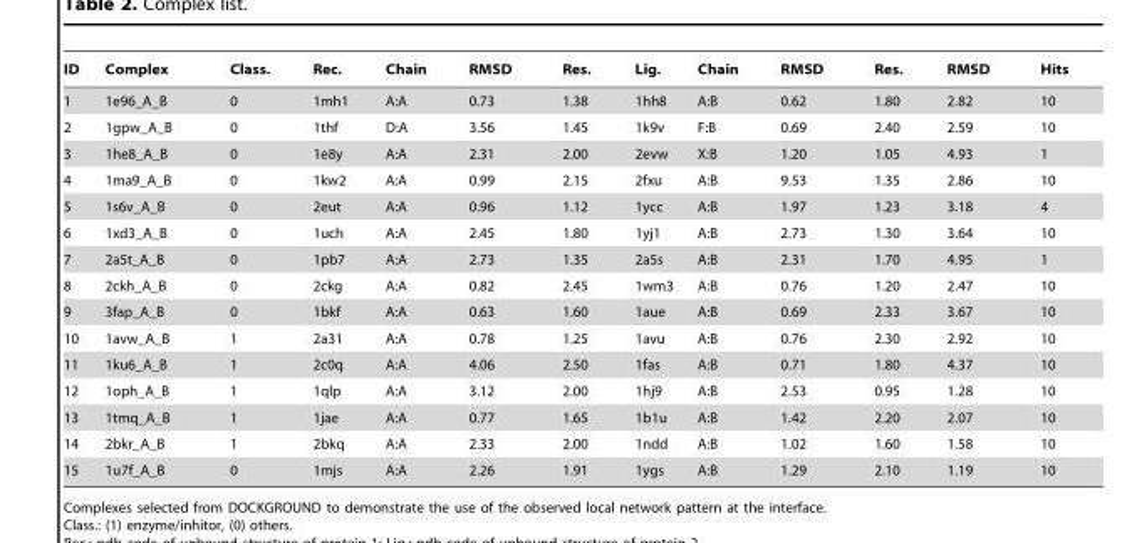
<table><thead><tr><td>ID</td><td>Complex</td><td>Class.</td><td>Rec.</td><td>Chain</td><td>RMSD</td><td>Res.</td><td>Lig.</td><td>Chain</td><td>RMSD</td><td>Res.</td><td>RMSD</td><td>Hits</td></tr></thead><tbody><tr><td>1</td><td>1e96_A_B</td><td>0</td><td>1mh1</td><td>A:A</td><td>0.73</td><td>1.38</td><td>1hh8</td><td>A:B</td><td>0.62</td><td>1.80</td><td>2.82</td><td>10</td></tr><tr><td>2</td><td>1gpw_A_B</td><td>0</td><td>1thf</td><td>D:A</td><td>3.56</td><td>1.45</td><td>1k9v</td><td>F:B</td><td>0.69</td><td>2.40</td><td>2.59</td><td>10</td></tr><tr><td>3</td><td>1he8_A_B</td><td>0</td><td>1e8y</td><td>A:A</td><td>2.31</td><td>2.00</td><td>2evw</td><td>X:B</td><td>1.20</td><td>1.05</td><td>4.93</td><td>1</td></tr><tr><td>4</td><td>1ma9_A_B</td><td>0</td><td>1kw2</td><td>A:A</td><td>0.99</td><td>2.15</td><td>2fxu</td><td>A:B</td><td>9.53</td><td>1.35</td><td>2.86</td><td>10</td></tr><tr><td>5</td><td>1s6v_A_B</td><td>0</td><td>2eut</td><td>A:A</td><td>0.96</td><td>1.12</td><td>1ycc</td><td>A:B</td><td>1.97</td><td>1.23</td><td>3.18</td><td>4</td></tr><tr><td>6</td><td>1xd3_A_B</td><td>0</td><td>1uch</td><td>A:A</td><td>2.45</td><td>1.80</td><td>1yj1</td><td>A:B</td><td>2.73</td><td>1.30</td><td>3.64</td><td>10</td></tr><tr><td>7</td><td>2a5t_A_B</td><td>0</td><td>1pb7</td><td>A:A</td><td>2.73</td><td>1.35</td><td>2a5s</td><td>A:B</td><td>2.31</td><td>1.70</td><td>4.95</td><td>1</td></tr><tr><td>8</td><td>2ckh_A_B</td><td>0</td><td>2ckg</td><td>A:A</td><td>0.82</td><td>2.45</td><td>1wm3</td><td>A:B</td><td>0.76</td><td>1.20</td><td>2.47</td><td>10</td></tr><tr><td>9</td><td>3fap_A_B</td><td>0</td><td>1bkf</td><td>A:A</td><td>0.63</td><td>1.60</td><td>1aue</td><td>A:B</td><td>0.69</td><td>2.33</td><td>3.67</td><td>10</td></tr><tr><td>10</td><td>1avw_A_B</td><td>1</td><td>2a31</td><td>A:A</td><td>0.78</td><td>1.25</td><td>1avu</td><td>A:B</td><td>0.76</td><td>2.30</td><td>2.92</td><td>10</td></tr><tr><td>11</td><td>1ku6_A_B</td><td>1</td><td>2c0q</td><td>A:A</td><td>4.06</td><td>2.50</td><td>1fas</td><td>A:B</td><td>0.71</td><td>1.80</td><td>4.37</td><td>10</td></tr><tr><td>12</td><td>1oph_A_B</td><td>1</td><td>1qlp</td><td>A:A</td><td>3.12</td><td>2.00</td><td>1hj9</td><td>A:B</td><td>2.53</td><td>0.95</td><td>1.28</td><td>10</td></tr><tr><td>13</td><td>1tmq_A_B</td><td>1</td><td>1jae</td><td>A:A</td><td>0.77</td><td>1.65</td><td>1b1u</td><td>A:B</td><td>1.42</td><td>2.20</td><td>2.07</td><td>10</td></tr><tr><td>14</td><td>2bkr_A_B</td><td>1</td><td>2bkq</td><td>A:A</td><td>2.33</td><td>2.00</td><td>1ndd</td><td>A:B</td><td>1.02</td><td>1.60</td><td>1.58</td><td>10</td></tr><tr><td>15</td><td>1u7f_A_B</td><td>0</td><td>1mjs</td><td>A:A</td><td>2.26</td><td>1.91</td><td>1ygs</td><td>A:B</td><td>1.29</td><td>2.10</td><td>1.19</td><td>10</td></tr></tbody></table>